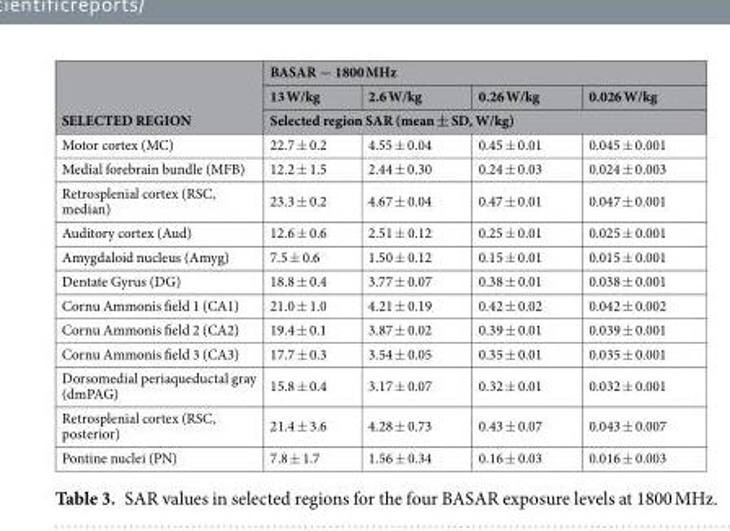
<table><thead><tr><td rowspan="3">SELECTED REGION</td><td colspan="4">BASAR − 1800 MHz</td></tr><tr><td>13 W/kg</td><td>2.6 W/kg</td><td>0.26 W/kg</td><td>0.026 W/kg</td></tr><tr><td colspan="4">Selected region SAR (mean ± SD, W/kg)</td></tr></thead><tbody><tr><td>Motor cortex (MC)</td><td>22.7 ± 0.2</td><td>4.55 ± 0.04</td><td>0.45 ± 0.01</td><td>0.045 ± 0.001</td></tr><tr><td>Medial forebrain bundle (MFB)</td><td>12.2 ± 1.5</td><td>2.44 ± 0.30</td><td>0.24 ± 0.03</td><td>0.024 ± 0.003</td></tr><tr><td>Retrosplenial cortex (RSC, median)</td><td>23.3 ± 0.2</td><td>4.67 ± 0.04</td><td>0.47 ± 0.01</td><td>0.047 ± 0.001</td></tr><tr><td>Auditory cortex (Aud)</td><td>12.6 ± 0.6</td><td>2.51 ± 0.12</td><td>0.25 ± 0.01</td><td>0.025 ± 0.001</td></tr><tr><td>Amygdaloid nucleus (Amyg)</td><td>7.5 ± 0.6</td><td>1.50 ± 0.12</td><td>0.15 ± 0.01</td><td>0.015 ± 0.001</td></tr><tr><td>Dentate Gyrus (DG)</td><td>18.8 ± 0.4</td><td>3.77 ± 0.07</td><td>0.38 ± 0.01</td><td>0.038 ± 0.001</td></tr><tr><td>Cornu Ammonis field 1 (CA1)</td><td>21.0 ± 1.0</td><td>4.21 ± 0.19</td><td>0.42 ± 0.02</td><td>0.042 ± 0.002</td></tr><tr><td>Cornu Ammonis field 2 (CA2)</td><td>19.4 ± 0.1</td><td>3.87 ± 0.02</td><td>0.39 ± 0.01</td><td>0.039 ± 0.001</td></tr><tr><td>Cornu Ammonis field 3 (CA3)</td><td>17.7 ± 0.3</td><td>3.54 ± 0.05</td><td>0.35 ± 0.01</td><td>0.035 ± 0.001</td></tr><tr><td>Dorsomedial periaqueductal gray (dmPAG)</td><td>15.8 ± 0.4</td><td>3.17 ± 0.07</td><td>0.32 ± 0.01</td><td>0.032 ± 0.001</td></tr><tr><td>Retrosplenial cortex (RSC, posterior)</td><td>21.4 ± 3.6</td><td>4.28 ± 0.73</td><td>0.43 ± 0.07</td><td>0.043 ± 0.007</td></tr><tr><td>Pontine nuclei (PN)</td><td>7.8 ± 1.7</td><td>1.56 ± 0.34</td><td>0.16 ± 0.03</td><td>0.016 ± 0.003</td></tr></tbody></table>